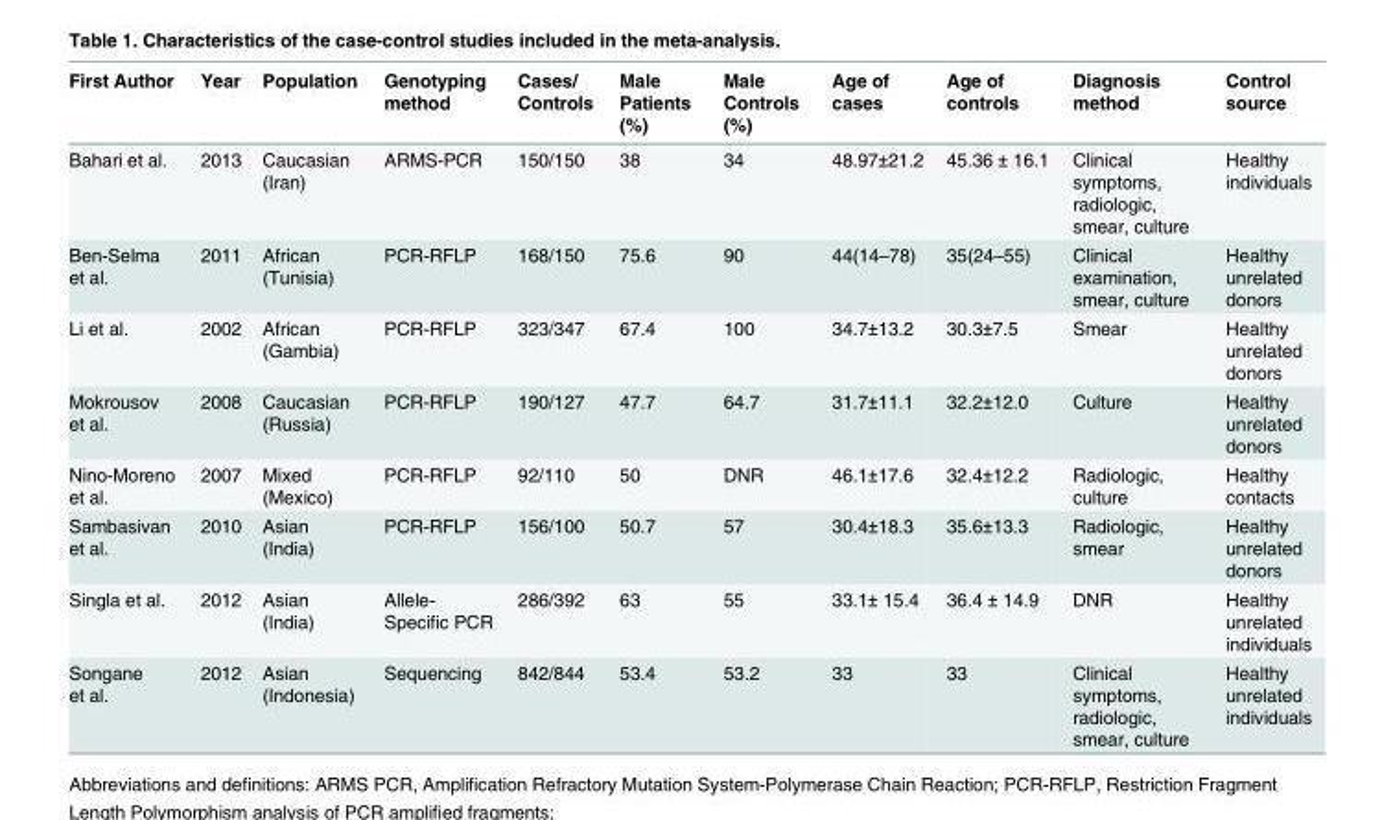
<table><thead><tr><td>First Author</td><td>Year</td><td>Population</td><td>Genotyping method</td><td>Cases/ Controls</td><td>Male Patients (%)</td><td>Male Controls (%)</td><td>Age of cases</td><td>Age of controls</td><td>Diagnosis method</td><td>Control source</td></tr></thead><tbody><tr><td>Bahari et al.</td><td>2013</td><td>Caucasian (Iran)</td><td>ARMS-PCR</td><td>150/150</td><td>38</td><td>34</td><td>48.97±21.2</td><td>45.36 ± 16.1</td><td>Clinical symptoms, radiologic, smear, culture</td><td>Healthy individuals</td></tr><tr><td>Ben-Selma et al.</td><td>2011</td><td>African (Tunisia)</td><td>PCR-RFLP</td><td>168/150</td><td>75.6</td><td>90</td><td>44(14–78)</td><td>35(24–55)</td><td>Clinical examination, smear, culture</td><td>Healthy unrelated donors</td></tr><tr><td>Li et al.</td><td>2002</td><td>African (Gambia)</td><td>PCR-RFLP</td><td>323/347</td><td>67.4</td><td>100</td><td>34.7±13.2</td><td>30.3±7.5</td><td>Smear</td><td>Healthy unrelated donors</td></tr><tr><td>Mokrousov et al.</td><td>2008</td><td>Caucasian (Russia)</td><td>PCR-RFLP</td><td>190/127</td><td>47.7</td><td>64.7</td><td>31.7±11.1</td><td>32.2±12.0</td><td>Culture</td><td>Healthy unrelated donors</td></tr><tr><td>Nino-Moreno et al.</td><td>2007</td><td>Mixed (Mexico)</td><td>PCR-RFLP</td><td>92/110</td><td>50</td><td>DNR</td><td>46.1±17.6</td><td>32.4±12.2</td><td>Radiologic, culture</td><td>Healthy contacts</td></tr><tr><td>Sambasivan et al.</td><td>2010</td><td>Asian (India)</td><td>PCR-RFLP</td><td>156/100</td><td>50.7</td><td>57</td><td>30.4±18.3</td><td>35.6±13.3</td><td>Radiologic, smear</td><td>Healthy unrelated donors</td></tr><tr><td>Singla et al.</td><td>2012</td><td>Asian (India)</td><td>Allele- Specific PCR</td><td>286/392</td><td>63</td><td>55</td><td>33.1± 15.4</td><td>36.4 ± 14.9</td><td>DNR</td><td>Healthy unrelated individuals</td></tr><tr><td>Songane et al.</td><td>2012</td><td>Asian (Indonesia)</td><td>Sequencing</td><td>842/844</td><td>53.4</td><td>53.2</td><td>33</td><td>33</td><td>Clinical symptoms, radiologic, smear, culture</td><td>Healthy unrelated individuals</td></tr></tbody></table>